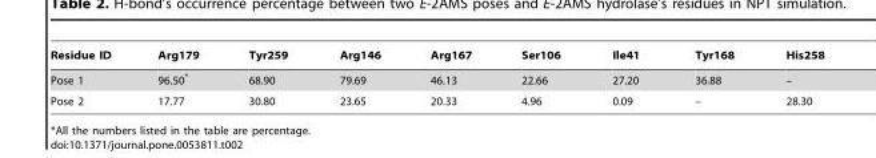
<table><thead><tr><td>Residue ID</td><td>Arg179</td><td>Tyr259</td><td>Arg146</td><td>Arg167</td><td>Ser106</td><td>Ile41</td><td>Tyr168</td><td>His258</td></tr></thead><tbody><tr><td>Pose 1</td><td>96.50*</td><td>68.90</td><td>79.69</td><td>46.13</td><td>22.66</td><td>27.20</td><td>36.88</td><td>–</td></tr><tr><td>Pose 2</td><td>17.77</td><td>30.80</td><td>23.65</td><td>20.33</td><td>4.96</td><td>0.09</td><td>–</td><td>28.30</td></tr></tbody></table>